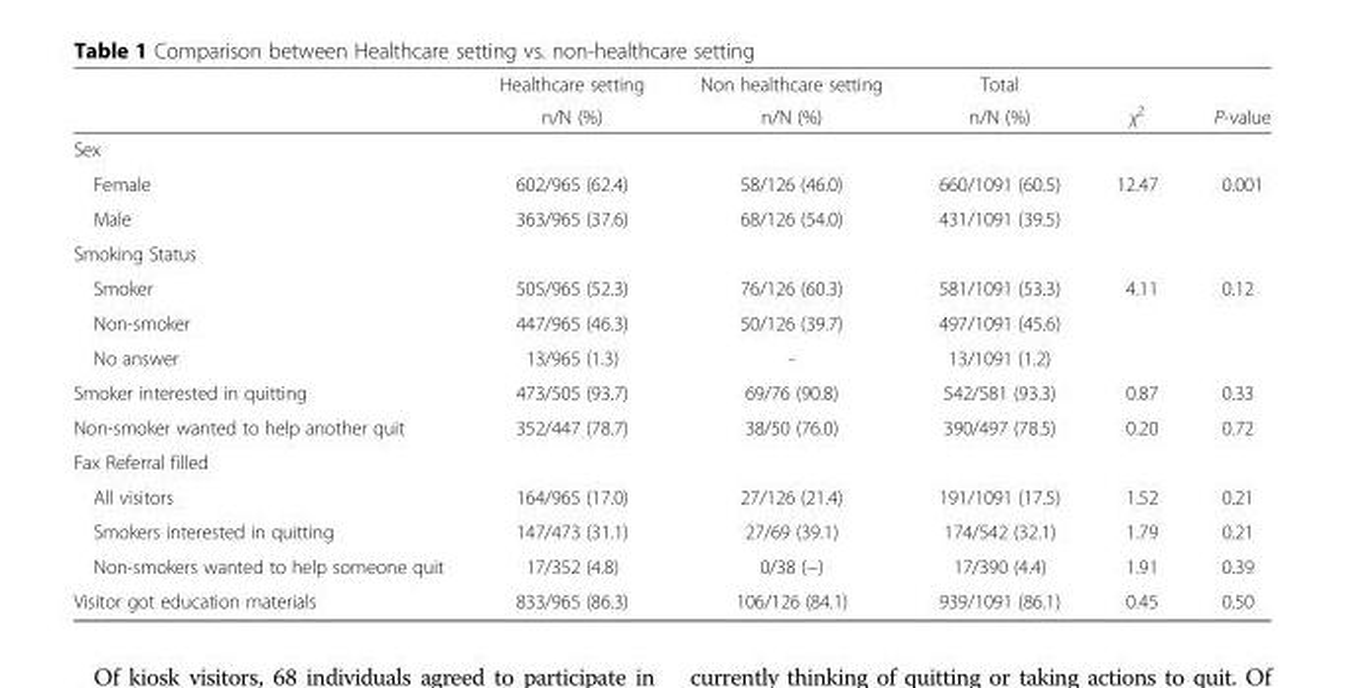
<table><thead><tr><td rowspan="2"></td><td rowspan="2">Healthcare setting n/N (%)</td><td rowspan="2">Non healthcare setting n/N (%)</td><td rowspan="2">Total n/N (%)</td><td rowspan="2">χ<sup>2</sup></td><td rowspan="2">P-value</td></tr><tr></tr></thead><tbody><tr><td colspan="6">Sex</td></tr><tr><td>Female</td><td>602/965 (62.4)</td><td>58/126 (46.0)</td><td>660/1091 (60.5)</td><td rowspan="2">12.47</td><td rowspan="2">0.001</td></tr><tr><td>Male</td><td>363/965 (37.6)</td><td>68/126 (54.0)</td><td>431/1091 (39.5)</td></tr><tr><td colspan="6">Smoking Status</td></tr><tr><td>Smoker</td><td>505/965 (52.3)</td><td>76/126 (60.3)</td><td>581/1091 (53.3)</td><td rowspan="3">4.11</td><td rowspan="3">0.12</td></tr><tr><td>Non-smoker</td><td>447/965 (46.3)</td><td>50/126 (39.7)</td><td>497/1091 (45.6)</td></tr><tr><td>No answer</td><td>13/965 (1.3)</td><td>-</td><td>13/1091 (1.2)</td></tr><tr><td>Smoker interested in quitting</td><td>473/505 (93.7)</td><td>69/76 (90.8)</td><td>542/581 (93.3)</td><td>0.87</td><td>0.33</td></tr><tr><td>Non-smoker wanted to help another quit</td><td>352/447 (78.7)</td><td>38/50 (76.0)</td><td>390/497 (78.5)</td><td>0.20</td><td>0.72</td></tr><tr><td colspan="6">Fax Referral filled</td></tr><tr><td>All visitors</td><td>164/965 (17.0)</td><td>27/126 (21.4)</td><td>191/1091 (17.5)</td><td>1.52</td><td>0.21</td></tr><tr><td>Smokers interested in quitting</td><td>147/473 (31.1)</td><td>27/69 (39.1)</td><td>174/542 (32.1)</td><td>1.79</td><td>0.21</td></tr><tr><td>Non-smokers wanted to help someone quit</td><td>17/352 (4.8)</td><td>0/38 (−)</td><td>17/390 (4.4)</td><td>1.91</td><td>0.39</td></tr><tr><td>Visitor got education materials</td><td>833/965 (86.3)</td><td>106/126 (84.1)</td><td>939/1091 (86.1)</td><td>0.45</td><td>0.50</td></tr></tbody></table>